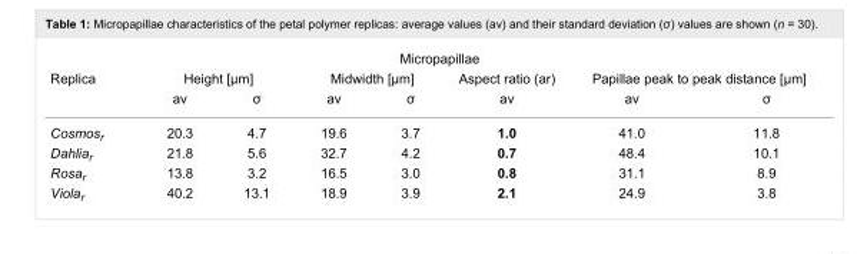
<table><tbody><tr><td colspan="8">Micropapillae</td></tr><tr><td rowspan="2">Replica</td><td colspan="2">Height [µm]</td><td colspan="2">Midwidth [µm]</td><td>Aspect ratio (ar)</td><td colspan="2">Papillae peak to peak distance [µm]</td></tr><tr><td>av</td><td>σ</td><td>av</td><td>σ</td><td>av</td><td>av</td><td>σ</td></tr><tr><td>Cosmos<sub>r</sub></td><td>20.3</td><td>4.7</td><td>19.6</td><td>3.7</td><td>1.0</td><td>41.0</td><td>11.8</td></tr><tr><td>Dahlia<sub>r</sub></td><td>21.8</td><td>5.6</td><td>32.7</td><td>4.2</td><td>0.7</td><td>48.4</td><td>10.1</td></tr><tr><td>Rosa<sub>r</sub></td><td>13.8</td><td>3.2</td><td>16.5</td><td>3.0</td><td>0.8</td><td>31.1</td><td>8.9</td></tr><tr><td>Viola<sub>r</sub></td><td>40.2</td><td>13.1</td><td>18.9</td><td>3.9</td><td>2.1</td><td>24.9</td><td>3.8</td></tr></tbody></table>